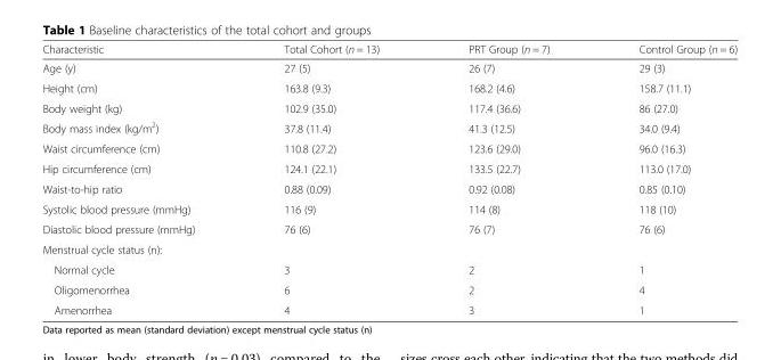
<table><thead><tr><td>Characteristic</td><td>Total Cohort (n = 13)</td><td>PRT Group (n = 7)</td><td>Control Group (n = 6)</td></tr></thead><tbody><tr><td>Age (y)</td><td>27 (5)</td><td>26 (7)</td><td>29 (3)</td></tr><tr><td>Height (cm)</td><td>163.8 (9.3)</td><td>168.2 (4.6)</td><td>158.7 (11.1)</td></tr><tr><td>Body weight (kg)</td><td>102.9 (35.0)</td><td>117.4 (36.6)</td><td>86 (27.0)</td></tr><tr><td>Body mass index (kg/m<sup>2</sup>)</td><td>37.8 (11.4)</td><td>41.3 (12.5)</td><td>34.0 (9.4)</td></tr><tr><td>Waist circumference (cm)</td><td>110.8 (27.2)</td><td>123.6 (29.0)</td><td>96.0 (16.3)</td></tr><tr><td>Hip circumference (cm)</td><td>124.1 (22.1)</td><td>133.5 (22.7)</td><td>113.0 (17.0)</td></tr><tr><td>Waist-to-hip ratio</td><td>0.88 (0.09)</td><td>0.92 (0.08)</td><td>0.85 (0.10)</td></tr><tr><td>Systolic blood pressure (mmHg)</td><td>116 (9)</td><td>114 (8)</td><td>118 (10)</td></tr><tr><td>Diastolic blood pressure (mmHg)</td><td>76 (6)</td><td>76 (7)</td><td>76 (6)</td></tr><tr><td colspan="4">Menstrual cycle status (n):</td></tr><tr><td>Normal cycle</td><td>3</td><td>2</td><td>1</td></tr><tr><td>Oligomenorrhea</td><td>6</td><td>2</td><td>4</td></tr><tr><td>Amenorrhea</td><td>4</td><td>3</td><td>1</td></tr></tbody></table>